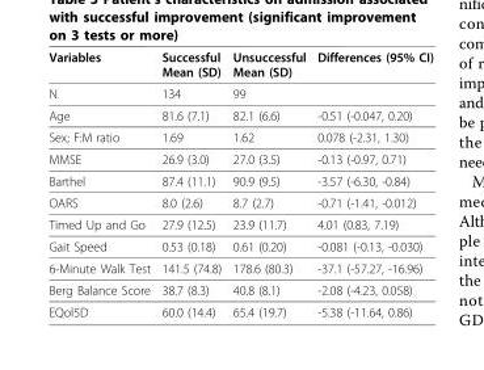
<table><thead><tr><td>Variables</td><td>Successful Mean (SD)</td><td>Unsuccessful Mean (SD)</td><td>Differences (95% CI)</td></tr></thead><tbody><tr><td>N</td><td>134</td><td>99</td><td></td></tr><tr><td>Age</td><td>81.6 (7.1)</td><td>82.1 (6.6)</td><td>-0.51 (-0.047, 0.20)</td></tr><tr><td>Sex; F:M ratio</td><td>1.69</td><td>1.62</td><td>0.078 (-2.31, 1.30)</td></tr><tr><td>MMSE</td><td>26.9 (3.0)</td><td>27.0 (3.5)</td><td>-0.13 (-0.97, 0.71)</td></tr><tr><td>Barthel</td><td>87.4 (11.1)</td><td>90.9 (9.5)</td><td>-3.57 (-6.30, -0.84)</td></tr><tr><td>OARS</td><td>8.0 (2.6)</td><td>8.7 (2.7)</td><td>-0.71 (-1.41, -0.012)</td></tr><tr><td>Timed Up and Go</td><td>27.9 (12.5)</td><td>23.9 (11.7)</td><td>4.01 (0.83, 7.19)</td></tr><tr><td>Gait Speed</td><td>0.53 (0.18)</td><td>0.61 (0.20)</td><td>-0.081 (-0.13, -0.030)</td></tr><tr><td>6-Minute Walk Test</td><td>141.5 (74.8)</td><td>178.6 (80.3)</td><td>-37.1 (-57.27, -16.96)</td></tr><tr><td>Berg Balance Score</td><td>38.7 (8.3)</td><td>40.8 (8.1)</td><td>-2.08 (-4.23, 0.058)</td></tr><tr><td>EQol5D</td><td>60.0 (14.4)</td><td>65.4 (19.7)</td><td>-5.38 (-11.64, 0.86)</td></tr></tbody></table>